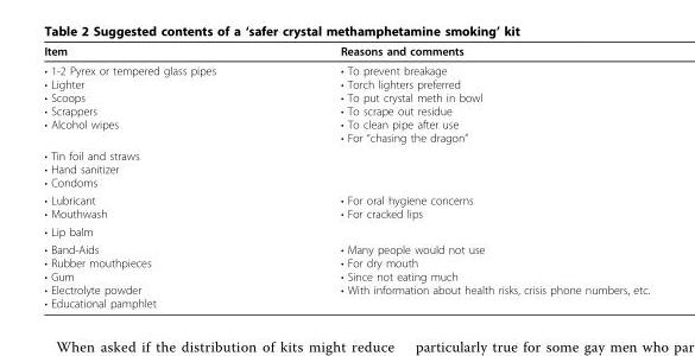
<table><thead><tr><td>Item</td><td>Reasons and comments</td></tr></thead><tbody><tr><td>• 1-2 Pyrex or tempered glass pipes • Lighter • Scoops • Scrappers • Alcohol wipes</td><td>• To prevent breakage • Torch lighters preferred • To put crystal meth in bowl • To scrape out residue • To clean pipe after use • For “chasing the dragon”</td></tr><tr><td colspan="2">• Tin foil and straws • Hand sanitizer • Condoms</td></tr><tr><td>• Lubricant • Mouthwash</td><td>• For oral hygiene concerns • For cracked lips</td></tr><tr><td colspan="2">• Lip balm</td></tr><tr><td>• Band-Aids • Rubber mouthpieces • Gum • Electrolyte powder • Educational pamphlet</td><td>• Many people would not use • For dry mouth • Since not eating much • With information about health risks, crisis phone numbers, etc.</td></tr></tbody></table>